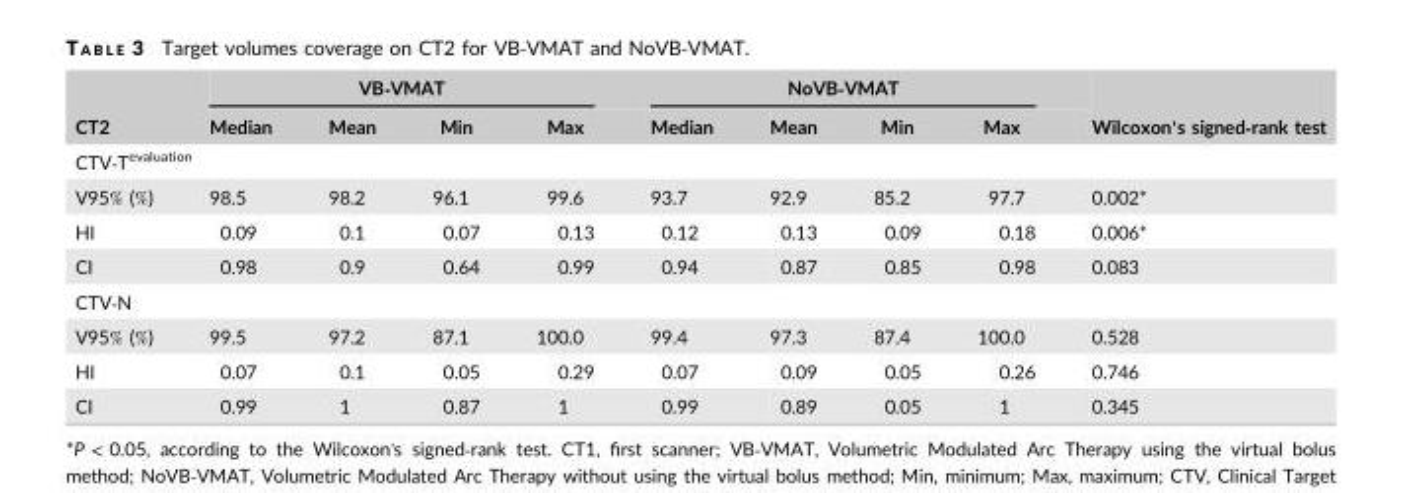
<table><thead><tr><td rowspan="2">CT2</td><td colspan="4">VB‐VMAT</td><td colspan="4">NoVB‐VMAT</td><td rowspan="2">Wilcoxon&#x27;s signed‐rank test</td></tr><tr><td>Median</td><td>Mean</td><td>Min</td><td>Max</td><td>Median</td><td>Mean</td><td>Min</td><td>Max</td></tr></thead><tbody><tr><td colspan="10">CTV‐T<sup>evaluation</sup></td></tr><tr><td>V95% (%)</td><td>98.5</td><td>98.2</td><td>96.1</td><td>99.6</td><td>93.7</td><td>92.9</td><td>85.2</td><td>97.7</td><td>0.002*</td></tr><tr><td>HI</td><td>0.09</td><td>0.1</td><td>0.07</td><td>0.13</td><td>0.12</td><td>0.13</td><td>0.09</td><td>0.18</td><td>0.006*</td></tr><tr><td>CI</td><td>0.98</td><td>0.9</td><td>0.64</td><td>0.99</td><td>0.94</td><td>0.87</td><td>0.85</td><td>0.98</td><td>0.083</td></tr><tr><td colspan="10">CTV‐N</td></tr><tr><td>V95% (%)</td><td>99.5</td><td>97.2</td><td>87.1</td><td>100.0</td><td>99.4</td><td>97.3</td><td>87.4</td><td>100.0</td><td>0.528</td></tr><tr><td>HI</td><td>0.07</td><td>0.1</td><td>0.05</td><td>0.29</td><td>0.07</td><td>0.09</td><td>0.05</td><td>0.26</td><td>0.746</td></tr><tr><td>CI</td><td>0.99</td><td>1</td><td>0.87</td><td>1</td><td>0.99</td><td>0.89</td><td>0.05</td><td>1</td><td>0.345</td></tr></tbody></table>